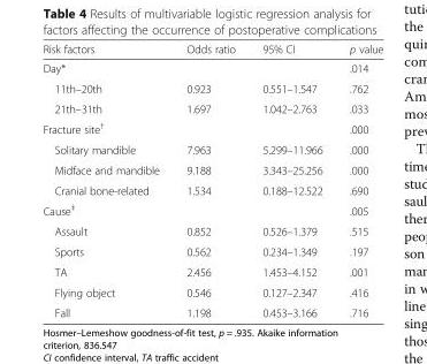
<table><thead><tr><td>Risk factors</td><td>Odds ratio</td><td>95% CI</td><td>p value</td></tr></thead><tbody><tr><td>Day*</td><td></td><td></td><td>.014</td></tr><tr><td>11th–20th</td><td>0.923</td><td>0.551–1.547</td><td>.762</td></tr><tr><td>21th–31th</td><td>1.697</td><td>1.042–2.763</td><td>.033</td></tr><tr><td>Fracture site<sup>†</sup></td><td></td><td></td><td>.000</td></tr><tr><td>Solitary mandible</td><td>7.963</td><td>5.299–11.966</td><td>.000</td></tr><tr><td>Midface and mandible</td><td>9.188</td><td>3.343–25.256</td><td>.000</td></tr><tr><td>Cranial bone-related</td><td>1.534</td><td>0.188–12.522</td><td>.690</td></tr><tr><td>Cause<sup>‡</sup></td><td></td><td></td><td>.005</td></tr><tr><td>Assault</td><td>0.852</td><td>0.526–1.379</td><td>.515</td></tr><tr><td>Sports</td><td>0.562</td><td>0.234–1.349</td><td>.197</td></tr><tr><td>TA</td><td>2.456</td><td>1.453–4.152</td><td>.001</td></tr><tr><td>Flying object</td><td>0.546</td><td>0.127–2.347</td><td>.416</td></tr><tr><td>Fall</td><td>1.198</td><td>0.453–3.166</td><td>.716</td></tr></tbody></table>